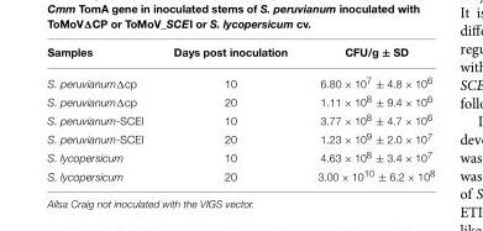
<table><thead><tr><td>Samples</td><td>Days post inoculation</td><td>CFU/g ± SD</td></tr></thead><tbody><tr><td>S. peruvianumΔcp</td><td>10</td><td>6.80 × 10<sup>7</sup> ± 4.8 × 10<sup>6</sup></td></tr><tr><td>S. peruvianumΔcp</td><td>20</td><td>1.11 × 10<sup>8</sup> ± 9.4 × 10<sup>6</sup></td></tr><tr><td>S. peruvianum-SCEI</td><td>10</td><td>3.77 × 10<sup>8</sup> ± 4.7 × 10<sup>6</sup></td></tr><tr><td>S. peruvianum-SCEI</td><td>20</td><td>1.23 × 10<sup>9</sup> ± 2.0 × 10<sup>7</sup></td></tr><tr><td>S. lycopersicum</td><td>10</td><td>4.63 × 10<sup>8</sup> ± 3.4 × 10<sup>7</sup></td></tr><tr><td>S. lycopersicum</td><td>20</td><td>3.00 × 10<sup>10</sup> ± 6.2 × 10<sup>8</sup></td></tr></tbody></table>